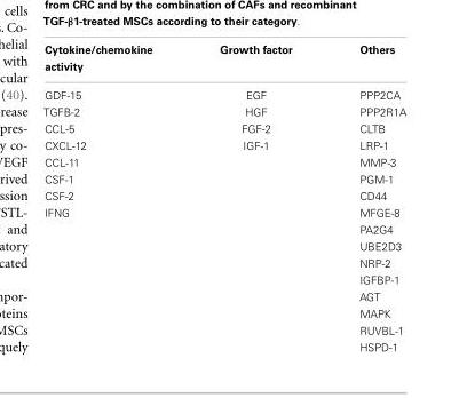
<table><thead><tr><td>Cytokine/chemokine activity</td><td>Growth factor</td><td>Others</td></tr></thead><tbody><tr><td>GDF-15</td><td>EGF</td><td>PPP2CA</td></tr><tr><td>TGFB-2</td><td>HGF</td><td>PPP2R1A</td></tr><tr><td>CCL-5</td><td>FGF-2</td><td>CLTB</td></tr><tr><td>CXCL-12</td><td>IGF-1</td><td>LRP-1</td></tr><tr><td>CCL-11</td><td></td><td>MMP-3</td></tr><tr><td>CSF-1</td><td></td><td>PGM-1</td></tr><tr><td>CSF-2</td><td></td><td>CD44</td></tr><tr><td rowspan="9">IFNG</td><td></td><td>MFGE-8</td></tr><tr><td></td><td>PA2G4</td></tr><tr><td></td><td>UBE2D3</td></tr><tr><td></td><td>NRP-2</td></tr><tr><td></td><td>IGFBP-1</td></tr><tr><td></td><td>AGT</td></tr><tr><td></td><td>MAPK</td></tr><tr><td></td><td>RUVBL-1</td></tr><tr><td></td><td>HSPD-1</td></tr></tbody></table>